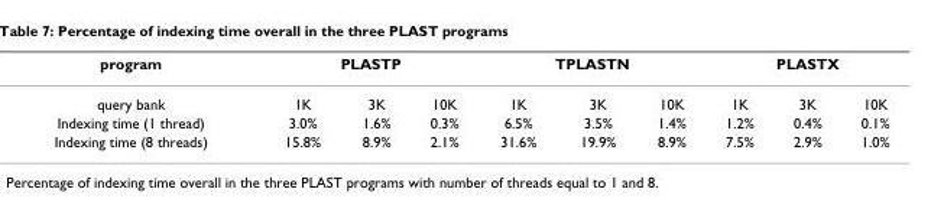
<table><thead><tr><td rowspan="2">program query bank</td><td colspan="3">PLASTP</td><td colspan="3">TPLASTN</td><td colspan="3">PLASTX</td></tr><tr><td>1K</td><td>3K</td><td>10K</td><td>1K</td><td>3K</td><td>10K</td><td>1K</td><td>3K</td><td>10K</td></tr></thead><tbody><tr><td>Indexing time (1 thread)</td><td>3.0%</td><td>1.6%</td><td>0.3%</td><td>6.5%</td><td>3.5%</td><td>1.4%</td><td>1.2%</td><td>0.4%</td><td>0.1%</td></tr><tr><td>Indexing time (8 threads)</td><td>15.8%</td><td>8.9%</td><td>2.1%</td><td>31.6%</td><td>19.9%</td><td>8.9%</td><td>7.5%</td><td>2.9%</td><td>1.0%</td></tr></tbody></table>